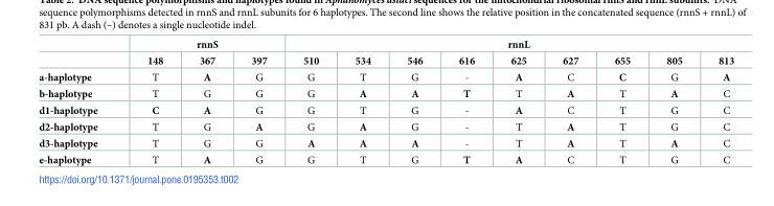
<table><thead><tr><td rowspan="2"></td><td colspan="3">rnnS</td><td colspan="9">rnnL</td></tr><tr><td>148</td><td>367</td><td>397</td><td>510</td><td>534</td><td>546</td><td>616</td><td>625</td><td>627</td><td>655</td><td>805</td><td>813</td></tr></thead><tbody><tr><td>a-haplotype</td><td>T</td><td>A</td><td>G</td><td>G</td><td>T</td><td>G</td><td>-</td><td>A</td><td>C</td><td>C</td><td>G</td><td>A</td></tr><tr><td>b-haplotype</td><td>T</td><td>G</td><td>G</td><td>G</td><td>A</td><td>A</td><td>T</td><td>T</td><td>A</td><td>T</td><td>A</td><td>C</td></tr><tr><td>d1-haplotype</td><td>C</td><td>A</td><td>G</td><td>G</td><td>T</td><td>G</td><td>-</td><td>A</td><td>C</td><td>T</td><td>G</td><td>C</td></tr><tr><td>d2-haplotype</td><td>T</td><td>G</td><td>A</td><td>G</td><td>A</td><td>G</td><td>-</td><td>T</td><td>A</td><td>T</td><td>G</td><td>C</td></tr><tr><td>d3-haplotype</td><td>T</td><td>G</td><td>G</td><td>A</td><td>A</td><td>A</td><td>-</td><td>T</td><td>A</td><td>T</td><td>A</td><td>C</td></tr><tr><td>e-haplotype</td><td>T</td><td>A</td><td>G</td><td>G</td><td>T</td><td>G</td><td>T</td><td>A</td><td>C</td><td>T</td><td>G</td><td>C</td></tr></tbody></table>